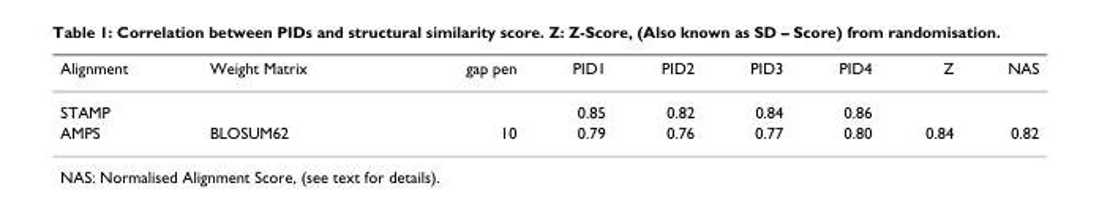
<table><thead><tr><td>Alignment</td><td>Weight Matrix</td><td>gap pen</td><td>PID1</td><td>PID2</td><td>PID3</td><td>PID4</td><td>Z</td><td>NAS</td></tr></thead><tbody><tr><td>STAMP</td><td></td><td></td><td>0.85</td><td>0.82</td><td>0.84</td><td>0.86</td><td></td><td></td></tr><tr><td>AMPS</td><td>BLOSUM62</td><td>10</td><td>0.79</td><td>0.76</td><td>0.77</td><td>0.80</td><td>0.84</td><td>0.82</td></tr></tbody></table>